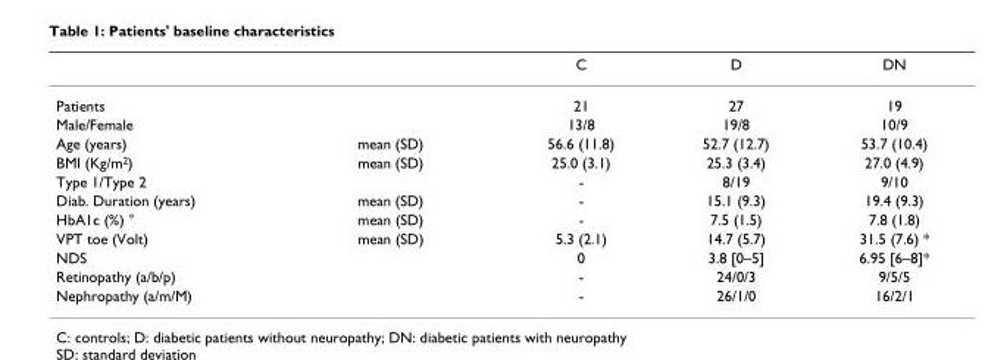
<table><thead><tr><td></td><td></td><td>C</td><td>D</td><td>DN</td></tr></thead><tbody><tr><td>Patients</td><td></td><td>21</td><td>27</td><td>19</td></tr><tr><td>Male/Female</td><td></td><td>13/8</td><td>19/8</td><td>10/9</td></tr><tr><td>Age (years)</td><td>mean (SD)</td><td>56.6 (11.8)</td><td>52.7 (12.7)</td><td>53.7 (10.4)</td></tr><tr><td>BMI (Kg/m<sup>2</sup>)</td><td>mean (SD)</td><td>25.0 (3.1)</td><td>25.3 (3.4)</td><td>27.0 (4.9)</td></tr><tr><td>Type 1/Type 2</td><td></td><td>-</td><td>8/19</td><td>9/10</td></tr><tr><td>Diab. Duration (years)</td><td>mean (SD)</td><td>-</td><td>15.1 (9.3)</td><td>19.4 (9.3)</td></tr><tr><td>HbA1c (%) °</td><td>mean (SD)</td><td>-</td><td>7.5 (1.5)</td><td>7.8 (1.8)</td></tr><tr><td>VPT toe (Volt)</td><td>mean (SD)</td><td>5.3 (2.1)</td><td>14.7 (5.7)</td><td>31.5 (7.6) *</td></tr><tr><td>NDS</td><td></td><td>0</td><td>3.8 [0–5]</td><td>6.95 [6–8]*</td></tr><tr><td>Retinopathy (a/b/p)</td><td></td><td>-</td><td>24/0/3</td><td>9/5/5</td></tr><tr><td>Nephropathy (a/m/M)</td><td></td><td>-</td><td>26/1/0</td><td>16/2/1</td></tr></tbody></table>